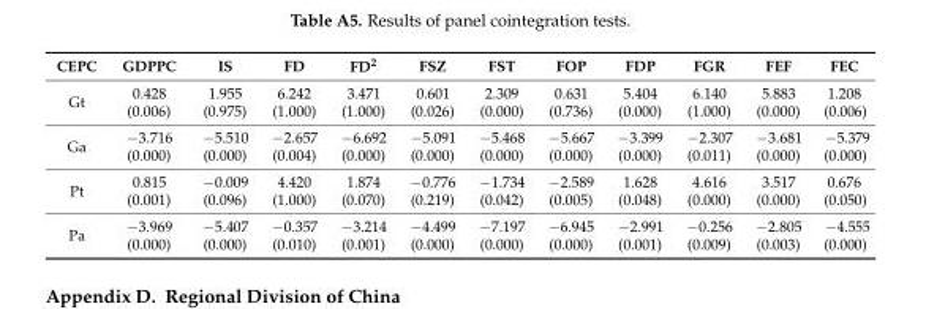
<table><thead><tr><td>CEPC</td><td>GDPPC</td><td>IS</td><td>FD</td><td>FD<sup>2</sup></td><td>FSZ</td><td>FST</td><td>FOP</td><td>FDP</td><td>FGR</td><td>FEF</td><td>FEC</td></tr></thead><tbody><tr><td>Gt</td><td>0.428 (0.006)</td><td>1.955 (0.975)</td><td>6.242 (1.000)</td><td>3.471 (1.000)</td><td>0.601 (0.026)</td><td>2.309 (0.000)</td><td>0.631 (0.736)</td><td>5.404 (0.000)</td><td>6.140 (1.000)</td><td>5.883 (0.000)</td><td>1.208 (0.006)</td></tr><tr><td>Ga</td><td>−3.716 (0.000)</td><td>−5.510 (0.000)</td><td>−2.657 (0.004)</td><td>−6.692 (0.000)</td><td>−5.091 (0.000)</td><td>−5.468 (0.000)</td><td>−5.667 (0.000)</td><td>−3.399 (0.000)</td><td>−2.307 (0.011)</td><td>−3.681 (0.000)</td><td>−5.379 (0.000)</td></tr><tr><td>Pt</td><td>0.815 (0.001)</td><td>−0.009 (0.096)</td><td>4.420 (1.000)</td><td>1.874 (0.070)</td><td>−0.776 (0.219)</td><td>−1.734 (0.042)</td><td>−2.589 (0.005)</td><td>1.628 (0.048)</td><td>4.616 (0.000)</td><td>3.517 (0.000)</td><td>0.676 (0.050)</td></tr><tr><td>Pa</td><td>−3.969 (0.000)</td><td>−5.407 (0.000)</td><td>−0.357 (0.010)</td><td>−3.214 (0.001)</td><td>−4.499 (0.000)</td><td>−7.197 (0.000)</td><td>−6.945 (0.000)</td><td>−2.991 (0.001)</td><td>−0.256 (0.009)</td><td>−2.805 (0.003)</td><td>−4.555 (0.000)</td></tr></tbody></table>